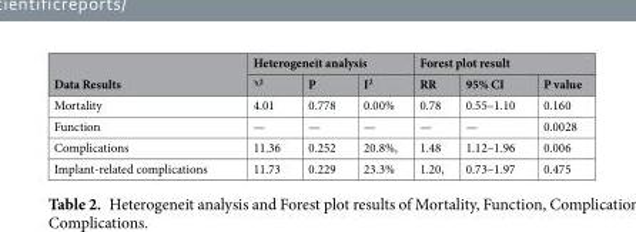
<table><thead><tr><td rowspan="2">Data Results</td><td colspan="3">Heterogeneit analysis</td><td colspan="3">Forest plot result</td></tr><tr><td><sup>χ2</sup></td><td>P</td><td>I<sup>2</sup></td><td>RR</td><td>95% CI</td><td>P value</td></tr></thead><tbody><tr><td>Mortality</td><td>4.01</td><td>0.778</td><td>0.00%</td><td>0.78</td><td>0.55–1.10</td><td>0.160</td></tr><tr><td>Function</td><td>—</td><td>—</td><td>—</td><td>—</td><td>—</td><td>0.0028</td></tr><tr><td>Complications</td><td>11.36</td><td>0.252</td><td>20.8%,</td><td>1.48</td><td>1.12–1.96</td><td>0.006</td></tr><tr><td>Implant-related complications</td><td>11.73</td><td>0.229</td><td>23.3%</td><td>1.20,</td><td>0.73–1.97</td><td>0.475</td></tr></tbody></table>